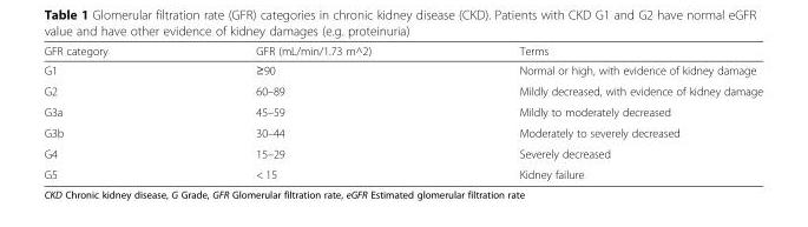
<table><thead><tr><td>GFR category</td><td>GFR (mL/min/1.73 m^2)</td><td>Terms</td></tr></thead><tbody><tr><td>G1</td><td>≥90</td><td>Normal or high, with evidence of kidney damage</td></tr><tr><td>G2</td><td>60–89</td><td>Mildly decreased, with evidence of kidney damage</td></tr><tr><td>G3a</td><td>45–59</td><td>Mildly to moderately decreased</td></tr><tr><td>G3b</td><td>30–44</td><td>Moderately to severely decreased</td></tr><tr><td>G4</td><td>15–29</td><td>Severely decreased</td></tr><tr><td>G5</td><td>&lt; 15</td><td>Kidney failure</td></tr></tbody></table>